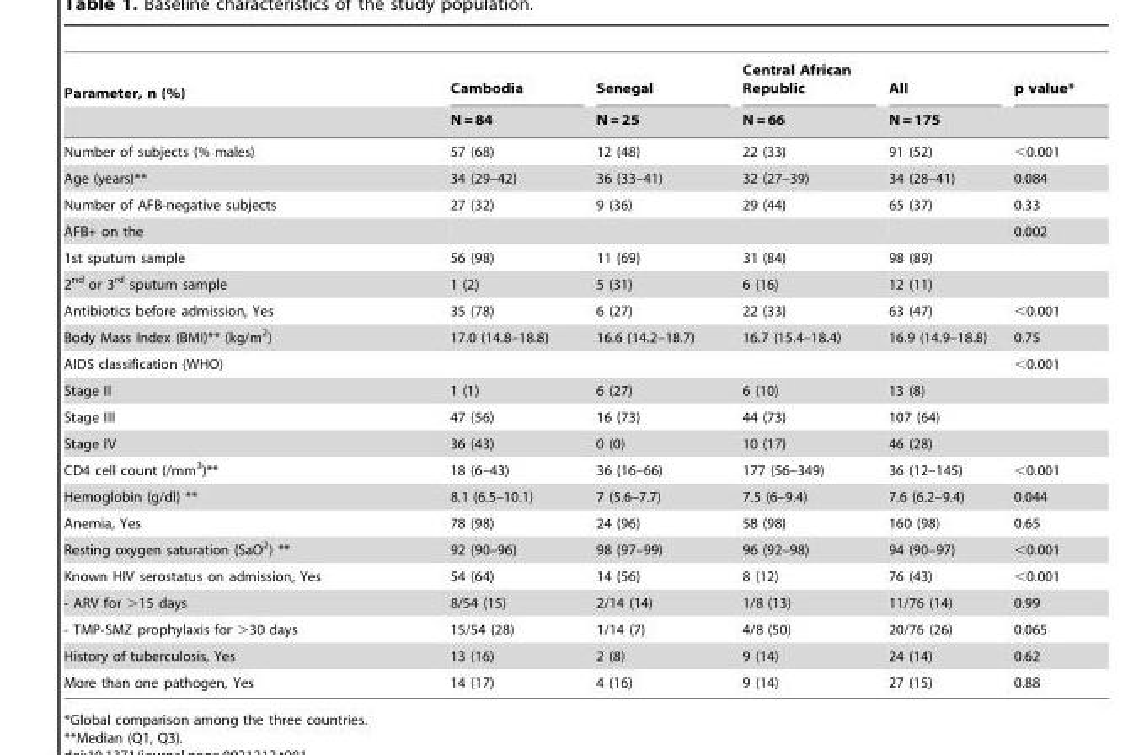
<table><thead><tr><td rowspan="2">Parameter, n (%)</td><td rowspan="2">Cambodia N = 84</td><td rowspan="2">Senegal N = 25</td><td rowspan="2">Central African Republic N = 66</td><td rowspan="2">All N = 175</td><td rowspan="2">p value*</td></tr><tr></tr></thead><tbody><tr><td>Number of subjects (% males)</td><td>57 (68)</td><td>12 (48)</td><td>22 (33)</td><td>91 (52)</td><td>&lt;0.001</td></tr><tr><td>Age (years)**</td><td>34 (29–42)</td><td>36 (33–41)</td><td>32 (27–39)</td><td>34 (28–41)</td><td>0.084</td></tr><tr><td>Number of AFB-negative subjects</td><td>27 (32)</td><td>9 (36)</td><td>29 (44)</td><td>65 (37)</td><td>0.33</td></tr><tr><td>AFB+ on the</td><td></td><td></td><td></td><td></td><td>0.002</td></tr><tr><td>1st sputum sample</td><td>56 (98)</td><td>11 (69)</td><td>31 (84)</td><td>98 (89)</td><td></td></tr><tr><td>2<sup>nd</sup> or 3<sup>rd</sup> sputum sample</td><td>1 (2)</td><td>5 (31)</td><td>6 (16)</td><td>12 (11)</td><td></td></tr><tr><td>Antibiotics before admission, Yes</td><td>35 (78)</td><td>6 (27)</td><td>22 (33)</td><td>63 (47)</td><td>&lt;0.001</td></tr><tr><td>Body Mass Index (BMI)** (kg/m<sup>2</sup>)</td><td>17.0 (14.8–18.8)</td><td>16.6 (14.2–18.7)</td><td>16.7 (15.4–18.4)</td><td>16.9 (14.9–18.8)</td><td>0.75</td></tr><tr><td>AIDS classification (WHO)</td><td></td><td></td><td></td><td></td><td>&lt;0.001</td></tr><tr><td>Stage II</td><td>1 (1)</td><td>6 (27)</td><td>6 (10)</td><td>13 (8)</td><td></td></tr><tr><td>Stage III</td><td>47 (56)</td><td>16 (73)</td><td>44 (73)</td><td>107 (64)</td><td></td></tr><tr><td>Stage IV</td><td>36 (43)</td><td>0 (0)</td><td>10 (17)</td><td>46 (28)</td><td></td></tr><tr><td>CD4 cell count (/mm<sup>3</sup>)**</td><td>18 (6–43)</td><td>36 (16–66)</td><td>177 (56–349)</td><td>36 (12–145)</td><td>&lt;0.001</td></tr><tr><td>Hemoglobin (g/dl) **</td><td>8.1 (6.5–10.1)</td><td>7 (5.6–7.7)</td><td>7.5 (6–9.4)</td><td>7.6 (6.2–9.4)</td><td>0.044</td></tr><tr><td>Anemia, Yes</td><td>78 (98)</td><td>24 (96)</td><td>58 (98)</td><td>160 (98)</td><td>0.65</td></tr><tr><td>Resting oxygen saturation (SaO<sup>2</sup>) **</td><td>92 (90–96)</td><td>98 (97–99)</td><td>96 (92–98)</td><td>94 (90–97)</td><td>&lt;0.001</td></tr><tr><td>Known HIV serostatus on admission, Yes</td><td>54 (64)</td><td>14 (56)</td><td>8 (12)</td><td>76 (43)</td><td>&lt;0.001</td></tr><tr><td>- ARV for &gt;15 days</td><td>8/54 (15)</td><td>2/14 (14)</td><td>1/8 (13)</td><td>11/76 (14)</td><td>0.99</td></tr><tr><td>- TMP-SMZ prophylaxis for &gt;30 days</td><td>15/54 (28)</td><td>1/14 (7)</td><td>4/8 (50)</td><td>20/76 (26)</td><td>0.065</td></tr><tr><td>History of tuberculosis, Yes</td><td>13 (16)</td><td>2 (8)</td><td>9 (14)</td><td>24 (14)</td><td>0.62</td></tr><tr><td>More than one pathogen, Yes</td><td>14 (17)</td><td>4 (16)</td><td>9 (14)</td><td>27 (15)</td><td>0.88</td></tr></tbody></table>